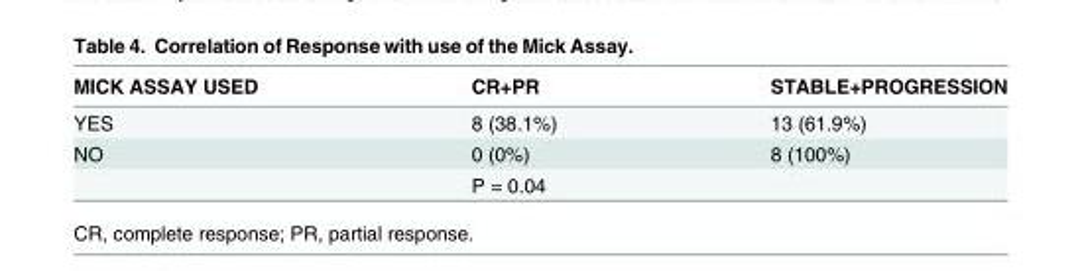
<table><thead><tr><td>MICK ASSAY USED</td><td>CR+PR</td><td>STABLE+PROGRESSION</td></tr></thead><tbody><tr><td>YES</td><td>8 (38.1%)</td><td>13 (61.9%)</td></tr><tr><td rowspan="2">NO</td><td>0 (0%)</td><td>8 (100%)</td></tr><tr><td>P = 0.04</td><td></td></tr></tbody></table>